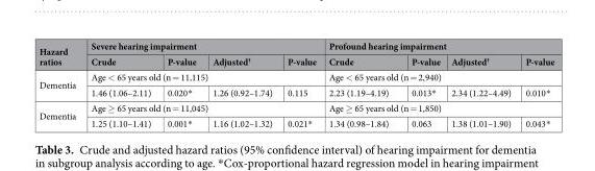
<table><thead><tr><td rowspan="2">Hazard ratios</td><td colspan="4">Severe hearing impairment</td><td colspan="4">Profound hearing impairment</td></tr><tr><td>Crude</td><td>P-value</td><td>Adjusted<sup>†</sup></td><td>P-value</td><td>Crude</td><td>P-value</td><td>Adjusted<sup>†</sup></td><td>P-value</td></tr></thead><tbody><tr><td rowspan="2">Dementia</td><td colspan="4">Age &lt; 65 years old (n = 11,115)</td><td colspan="4">Age &lt; 65 years old (n = 2,940)</td></tr><tr><td>1.46 (1.06–2.11)</td><td>0.020*</td><td>1.26 (0.92–1.74)</td><td>0.115</td><td>2.23 (1.19–4.19)</td><td>0.013*</td><td>2.34 (1.22–4.49)</td><td>0.010*</td></tr><tr><td rowspan="2">Dementia</td><td colspan="4">Age ≥ 65 years old (n = 11,045)</td><td colspan="4">Age ≥ 65 years old (n = 1,850)</td></tr><tr><td>1.25 (1.10–1.41)</td><td>0.001*</td><td>1.16 (1.02–1.32)</td><td>0.021*</td><td>1.34 (0.98–1.84)</td><td>0.063</td><td>1.38 (1.01–1.90)</td><td>0.043*</td></tr></tbody></table>